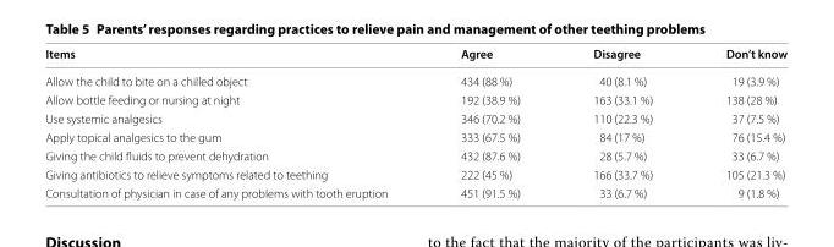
<table><thead><tr><td>Items</td><td>Agree</td><td>Disagree</td><td>Don’t know</td></tr></thead><tbody><tr><td>Allow the child to bite on a chilled object</td><td>434 (88 %)</td><td>40 (8.1 %)</td><td>19 (3.9 %)</td></tr><tr><td>Allow bottle feeding or nursing at night</td><td>192 (38.9 %)</td><td>163 (33.1 %)</td><td>138 (28 %)</td></tr><tr><td>Use systemic analgesics</td><td>346 (70.2 %)</td><td>110 (22.3 %)</td><td>37 (7.5 %)</td></tr><tr><td>Apply topical analgesics to the gum</td><td>333 (67.5 %)</td><td>84 (17 %)</td><td>76 (15.4 %)</td></tr><tr><td>Giving the child fluids to prevent dehydration</td><td>432 (87.6 %)</td><td>28 (5.7 %)</td><td>33 (6.7 %)</td></tr><tr><td>Giving antibiotics to relieve symptoms related to teething</td><td>222 (45 %)</td><td>166 (33.7 %)</td><td>105 (21.3 %)</td></tr><tr><td>Consultation of physician in case of any problems with tooth eruption</td><td>451 (91.5 %)</td><td>33 (6.7 %)</td><td>9 (1.8 %)</td></tr></tbody></table>